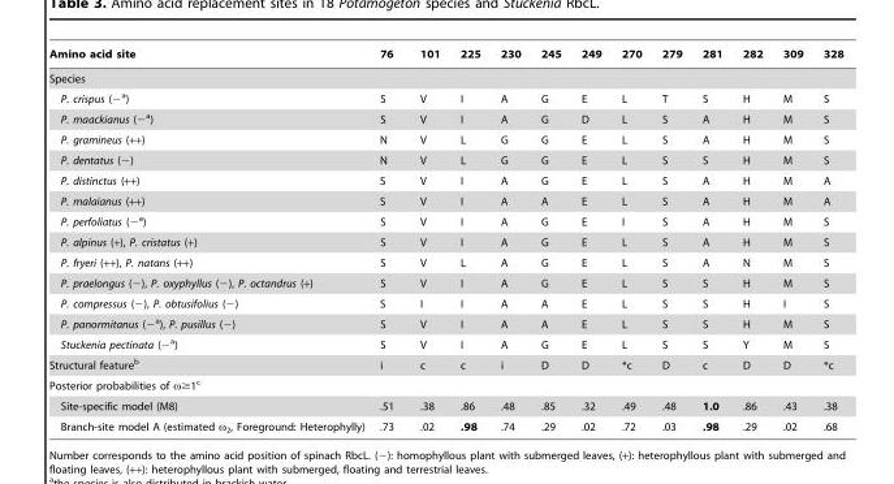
<table><thead><tr><td>Amino acid site</td><td>76</td><td>101</td><td>225</td><td>230</td><td>245</td><td>249</td><td>270</td><td>279</td><td>281</td><td>282</td><td>309</td><td>328</td></tr></thead><tbody><tr><td colspan="13">Species</td></tr><tr><td>P. crispus (−a)</td><td>S</td><td>V</td><td>I</td><td>A</td><td>G</td><td>E</td><td>L</td><td>T</td><td>S</td><td>H</td><td>M</td><td>S</td></tr><tr><td>P. maackianus (−a)</td><td>S</td><td>V</td><td>I</td><td>A</td><td>G</td><td>D</td><td>L</td><td>S</td><td>A</td><td>H</td><td>M</td><td>S</td></tr><tr><td>P. gramineus (++)</td><td>N</td><td>V</td><td>L</td><td>G</td><td>G</td><td>E</td><td>L</td><td>S</td><td>A</td><td>H</td><td>M</td><td>S</td></tr><tr><td>P. dentatus (−)</td><td>N</td><td>V</td><td>L</td><td>G</td><td>G</td><td>E</td><td>L</td><td>S</td><td>S</td><td>H</td><td>M</td><td>S</td></tr><tr><td>P. distinctus (++)</td><td>S</td><td>V</td><td>I</td><td>A</td><td>G</td><td>E</td><td>L</td><td>S</td><td>A</td><td>H</td><td>M</td><td>A</td></tr><tr><td>P. malaianus (++)</td><td>S</td><td>V</td><td>I</td><td>A</td><td>A</td><td>E</td><td>L</td><td>S</td><td>A</td><td>H</td><td>M</td><td>A</td></tr><tr><td>P. perfoliatus (−a)</td><td>S</td><td>V</td><td>I</td><td>A</td><td>G</td><td>E</td><td>I</td><td>S</td><td>A</td><td>H</td><td>M</td><td>S</td></tr><tr><td>P. alpinus (+), P. cristatus (+)</td><td>S</td><td>V</td><td>I</td><td>A</td><td>G</td><td>E</td><td>L</td><td>S</td><td>A</td><td>H</td><td>M</td><td>S</td></tr><tr><td>P. fryeri (++), P. natans (++)</td><td>S</td><td>V</td><td>L</td><td>A</td><td>G</td><td>E</td><td>L</td><td>S</td><td>A</td><td>N</td><td>M</td><td>S</td></tr><tr><td>P. praelongus (−), P. oxyphyllus (−), P. octandrus (+)</td><td>S</td><td>V</td><td>I</td><td>A</td><td>G</td><td>E</td><td>L</td><td>S</td><td>S</td><td>H</td><td>M</td><td>S</td></tr><tr><td>P. compressus (−), P. obtusifolius (−)</td><td>S</td><td>I</td><td>I</td><td>A</td><td>A</td><td>E</td><td>L</td><td>S</td><td>S</td><td>H</td><td>I</td><td>S</td></tr><tr><td>P. panormitanus (−a), P. pusillus (−)</td><td>S</td><td>V</td><td>I</td><td>A</td><td>A</td><td>E</td><td>L</td><td>S</td><td>S</td><td>H</td><td>M</td><td>S</td></tr><tr><td>Stuckenia pectinata (−a)</td><td>S</td><td>V</td><td>I</td><td>A</td><td>G</td><td>E</td><td>L</td><td>S</td><td>S</td><td>Y</td><td>M</td><td>S</td></tr><tr><td>Structural feature<sup>b</sup></td><td>i</td><td>c</td><td>c</td><td>i</td><td>D</td><td>D</td><td>*c</td><td>D</td><td>c</td><td>D</td><td>D</td><td>*c</td></tr><tr><td colspan="13">Posterior probabilities of ω≥1<sup>c</sup></td></tr><tr><td>Site-specific model (M8)</td><td>.51</td><td>.38</td><td>.86</td><td>.48</td><td>.85</td><td>.32</td><td>.49</td><td>.48</td><td>1.0</td><td>.86</td><td>.43</td><td>.38</td></tr><tr><td>Branch-site model A (estimated ω<sub>2</sub>, Foreground: Heterophylly)</td><td>.73</td><td>.02</td><td>.98</td><td>.74</td><td>.29</td><td>.02</td><td>.72</td><td>.03</td><td>.98</td><td>.29</td><td>.02</td><td>.68</td></tr></tbody></table>